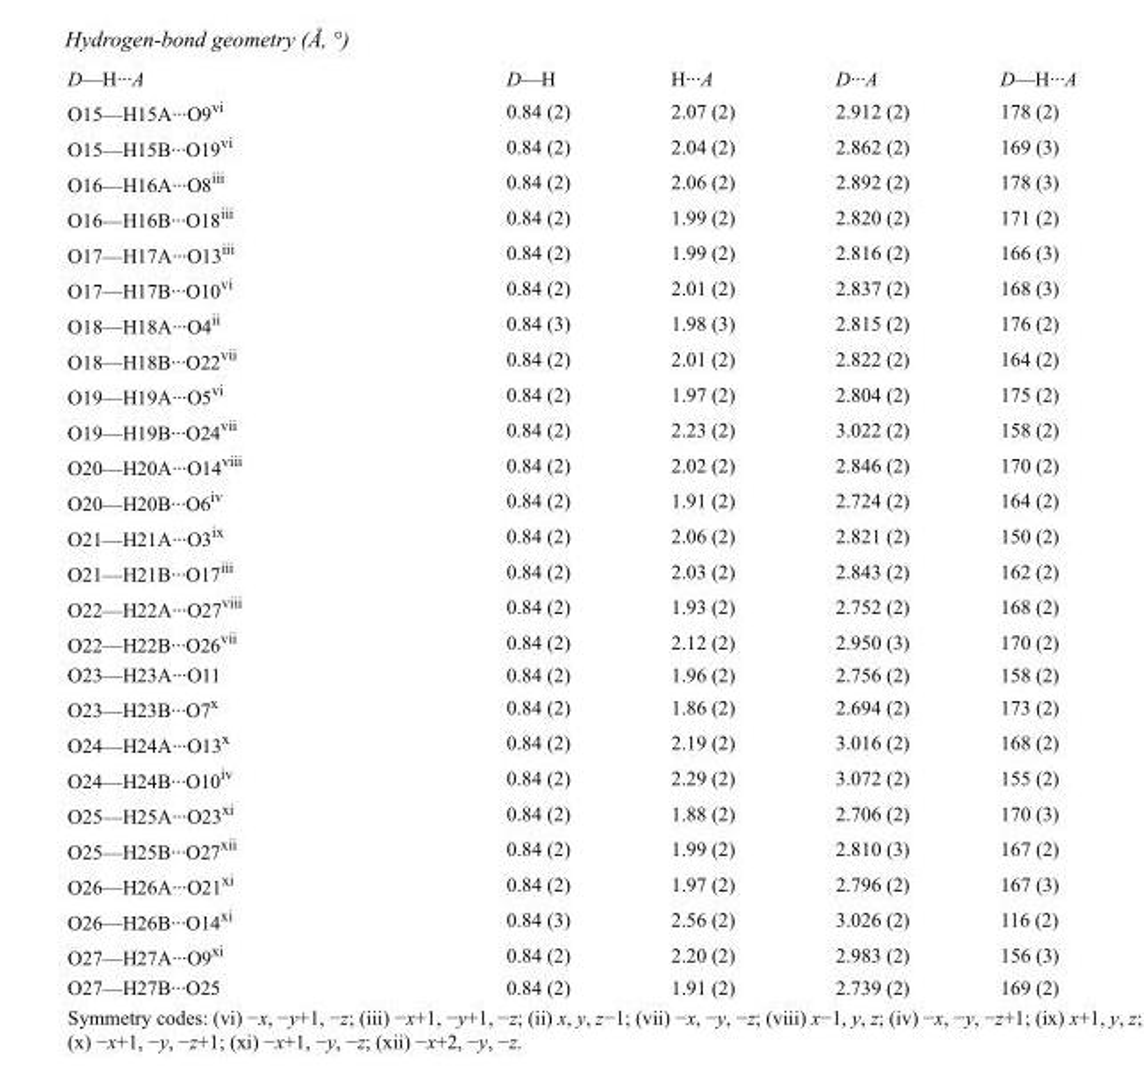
<table><tbody><tr><td>D—H···A</td><td>D—H</td><td>H···A</td><td>D···A</td><td>D—H···A</td></tr><tr><td>O15—H15A···O9<sup>vi</sup></td><td>0.84 (2)</td><td>2.07 (2)</td><td>2.912 (2)</td><td>178 (2)</td></tr><tr><td>O15—H15B···O19<sup>vi</sup></td><td>0.84 (2)</td><td>2.04 (2)</td><td>2.862 (2)</td><td>169 (3)</td></tr><tr><td>O16—H16A···O8<sup>iii</sup></td><td>0.84 (2)</td><td>2.06 (2)</td><td>2.892 (2)</td><td>178 (3)</td></tr><tr><td>O16—H16B···O18<sup>iii</sup></td><td>0.84 (2)</td><td>1.99 (2)</td><td>2.820 (2)</td><td>171 (2)</td></tr><tr><td>O17—H17A···O13<sup>iii</sup></td><td>0.84 (2)</td><td>1.99 (2)</td><td>2.816 (2)</td><td>166 (3)</td></tr><tr><td>O17—H17B···O10<sup>vi</sup></td><td>0.84 (2)</td><td>2.01 (2)</td><td>2.837 (2)</td><td>168 (3)</td></tr><tr><td>O18—H18A···O4<sup>ii</sup></td><td>0.84 (3)</td><td>1.98 (3)</td><td>2.815 (2)</td><td>176 (2)</td></tr><tr><td>O18—H18B···O22<sup>vii</sup></td><td>0.84 (2)</td><td>2.01 (2)</td><td>2.822 (2)</td><td>164 (2)</td></tr><tr><td>O19—H19A···O5<sup>vi</sup></td><td>0.84 (2)</td><td>1.97 (2)</td><td>2.804 (2)</td><td>175 (2)</td></tr><tr><td>O19—H19B···O24<sup>vii</sup></td><td>0.84 (2)</td><td>2.23 (2)</td><td>3.022 (2)</td><td>158 (2)</td></tr><tr><td>O20—H20A···O14<sup>viii</sup></td><td>0.84 (2)</td><td>2.02 (2)</td><td>2.846 (2)</td><td>170 (2)</td></tr><tr><td>O20—H20B···O6<sup>iv</sup></td><td>0.84 (2)</td><td>1.91 (2)</td><td>2.724 (2)</td><td>164 (2)</td></tr><tr><td>O21—H21A···O3<sup>ix</sup></td><td>0.84 (2)</td><td>2.06 (2)</td><td>2.821 (2)</td><td>150 (2)</td></tr><tr><td>O21—H21B···O17<sup>iii</sup></td><td>0.84 (2)</td><td>2.03 (2)</td><td>2.843 (2)</td><td>162 (2)</td></tr><tr><td>O22—H22A···O27<sup>viii</sup></td><td>0.84 (2)</td><td>1.93 (2)</td><td>2.752 (2)</td><td>168 (2)</td></tr><tr><td>O22—H22B···O26<sup>vii</sup></td><td>0.84 (2)</td><td>2.12 (2)</td><td>2.950 (3)</td><td>170 (2)</td></tr><tr><td>O23—H23A···O11</td><td>0.84 (2)</td><td>1.96 (2)</td><td>2.756 (2)</td><td>158 (2)</td></tr><tr><td>O23—H23B···O7<sup>x</sup></td><td>0.84 (2)</td><td>1.86 (2)</td><td>2.694 (2)</td><td>173 (2)</td></tr><tr><td>O24—H24A···O13<sup>x</sup></td><td>0.84 (2)</td><td>2.19 (2)</td><td>3.016 (2)</td><td>168 (2)</td></tr><tr><td>O24—H24B···O10<sup>iv</sup></td><td>0.84 (2)</td><td>2.29 (2)</td><td>3.072 (2)</td><td>155 (2)</td></tr><tr><td>O25—H25A···O23<sup>xi</sup></td><td>0.84 (2)</td><td>1.88 (2)</td><td>2.706 (2)</td><td>170 (3)</td></tr><tr><td>O25—H25B···O27<sup>xii</sup></td><td>0.84 (2)</td><td>1.99 (2)</td><td>2.810 (3)</td><td>167 (2)</td></tr><tr><td>O26—H26A···O21<sup>xi</sup></td><td>0.84 (2)</td><td>1.97 (2)</td><td>2.796 (2)</td><td>167 (3)</td></tr><tr><td>O26—H26B···O14<sup>xi</sup></td><td>0.84 (3)</td><td>2.56 (2)</td><td>3.026 (2)</td><td>116 (2)</td></tr><tr><td>O27—H27A···O9<sup>xi</sup></td><td>0.84 (2)</td><td>2.20 (2)</td><td>2.983 (2)</td><td>156 (3)</td></tr><tr><td>O27—H27B···O25</td><td>0.84 (2)</td><td>1.91 (2)</td><td>2.739 (2)</td><td>169 (2)</td></tr></tbody></table>